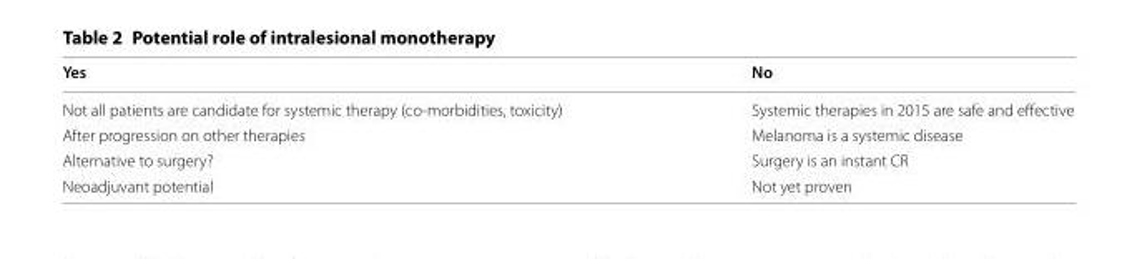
<table><thead><tr><td>Yes</td><td>No</td></tr></thead><tbody><tr><td>Not all patients are candidate for systemic therapy (co-morbidities, toxicity)</td><td>Systemic therapies in 2015 are safe and effective</td></tr><tr><td>After progression on other therapies</td><td>Melanoma is a systemic disease</td></tr><tr><td>Alternative to surgery?</td><td>Surgery is an instant CR</td></tr><tr><td>Neoadjuvant potential</td><td>Not yet proven</td></tr></tbody></table>